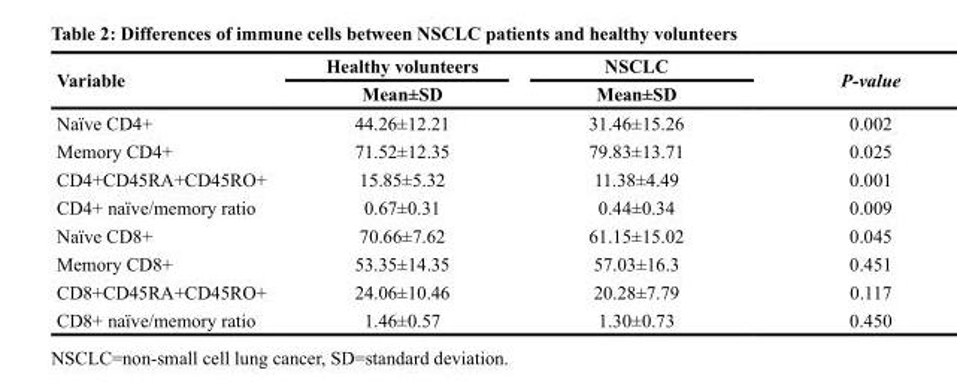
<table><thead><tr><td rowspan="2">Variable</td><td rowspan="2">Healthy volunteers Mean±SD</td><td rowspan="2">NSCLC Mean±SD</td><td rowspan="2">P-value</td></tr><tr></tr></thead><tbody><tr><td>Naïve CD4+</td><td>44.26±12.21</td><td>31.46±15.26</td><td>0.002</td></tr><tr><td>Memory CD4+</td><td>71.52±12.35</td><td>79.83±13.71</td><td>0.025</td></tr><tr><td>CD4+CD45RA+CD45RO+</td><td>15.85±5.32</td><td>11.38±4.49</td><td>0.001</td></tr><tr><td>CD4+ naïve/memory ratio</td><td>0.67±0.31</td><td>0.44±0.34</td><td>0.009</td></tr><tr><td>Naïve CD8+</td><td>70.66±7.62</td><td>61.15±15.02</td><td>0.045</td></tr><tr><td>Memory CD8+</td><td>53.35±14.35</td><td>57.03±16.3</td><td>0.451</td></tr><tr><td>CD8+CD45RA+CD45RO+</td><td>24.06±10.46</td><td>20.28±7.79</td><td>0.117</td></tr><tr><td>CD8+ naïve/memory ratio</td><td>1.46±0.57</td><td>1.30±0.73</td><td>0.450</td></tr></tbody></table>